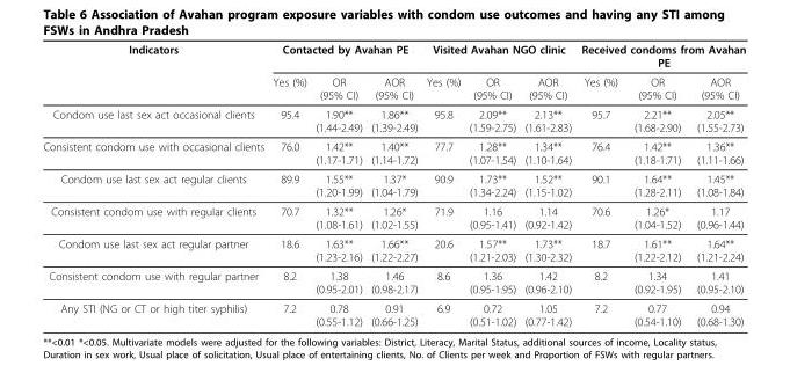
<table><thead><tr><td rowspan="2">Indicators</td><td colspan="3">Contacted by Avahan PE</td><td colspan="3">Visited Avahan NGO clinic</td><td colspan="3">Received condoms from Avahan PE</td></tr><tr><td>Yes (%)</td><td>OR (95% CI)</td><td>AOR (95% CI)</td><td>Yes (%)</td><td>OR (95% CI)</td><td>AOR (95% CI)</td><td>Yes (%)</td><td>OR (95% CI)</td><td>AOR (95% CI)</td></tr></thead><tbody><tr><td>Condom use last sex act occasional clients</td><td>95.4</td><td>1.90** (1.44-2.49)</td><td>1.86** (1.39-2.49)</td><td>95.8</td><td>2.09** (1.59-2.75)</td><td>2.13** (1.61-2.83)</td><td>95.7</td><td>2.21** (1.68-2.90)</td><td>2.05** (1.55-2.73)</td></tr><tr><td>Consistent condom use with occasional clients</td><td>76.0</td><td>1.42** (1.17-1.71)</td><td>1.40** (1.14-1.72)</td><td>77.7</td><td>1.28** (1.07-1.54)</td><td>1.34** (1.10-1.64)</td><td>76.4</td><td>1.42** (1.18-1.71)</td><td>1.36** (1.11-1.66)</td></tr><tr><td>Condom use last sex act regular clients</td><td>89.9</td><td>1.55** (1.20-1.99)</td><td>1.37* (1.04-1.79)</td><td>90.9</td><td>1.73** (1.34-2.24)</td><td>1.52** (1.15-1.02)</td><td>90.1</td><td>1.64** (1.28-2.11)</td><td>1.45** (1.08-1.84)</td></tr><tr><td>Consistent condom use with regular clients</td><td>70.7</td><td>1.32** (1.08-1.61)</td><td>1.26* (1.02-1.55)</td><td>71.9</td><td>1.16 (0.95-1.41)</td><td>1.14 (0.92-1.42)</td><td>70.6</td><td>1.26* (1.04-1.52)</td><td>1.17 (0.96-1.44)</td></tr><tr><td>Condom use last sex act regular partner</td><td>18.6</td><td>1.63** (1.23-2.16)</td><td>1.66** (1.22-2.27)</td><td>20.6</td><td>1.57** (1.21-2.03)</td><td>1.73** (1.30-2.32)</td><td>18.7</td><td>1.61** (1.22-2.12)</td><td>1.64** (1.21-2.24)</td></tr><tr><td>Consistent condom use with regular partner</td><td>8.2</td><td>1.38 (0.95-2.01)</td><td>1.46 (0.98-2.17)</td><td>8.6</td><td>1.36 (0.95-1.95)</td><td>1.42 (0.96-2.10)</td><td>8.2</td><td>1.34 (0.92-1.95)</td><td>1.41 (0.95-2.10)</td></tr><tr><td>Any STI (NG or CT or high titer syphilis)</td><td>7.2</td><td>0.78 (0.55-1.12)</td><td>0.91 (0.66-1.25)</td><td>6.9</td><td>0.72 (0.51-1.02)</td><td>1.05 (0.77-1.42)</td><td>7.2</td><td>0.77 (0.54-1.10)</td><td>0.94 (0.68-1.30)</td></tr></tbody></table>